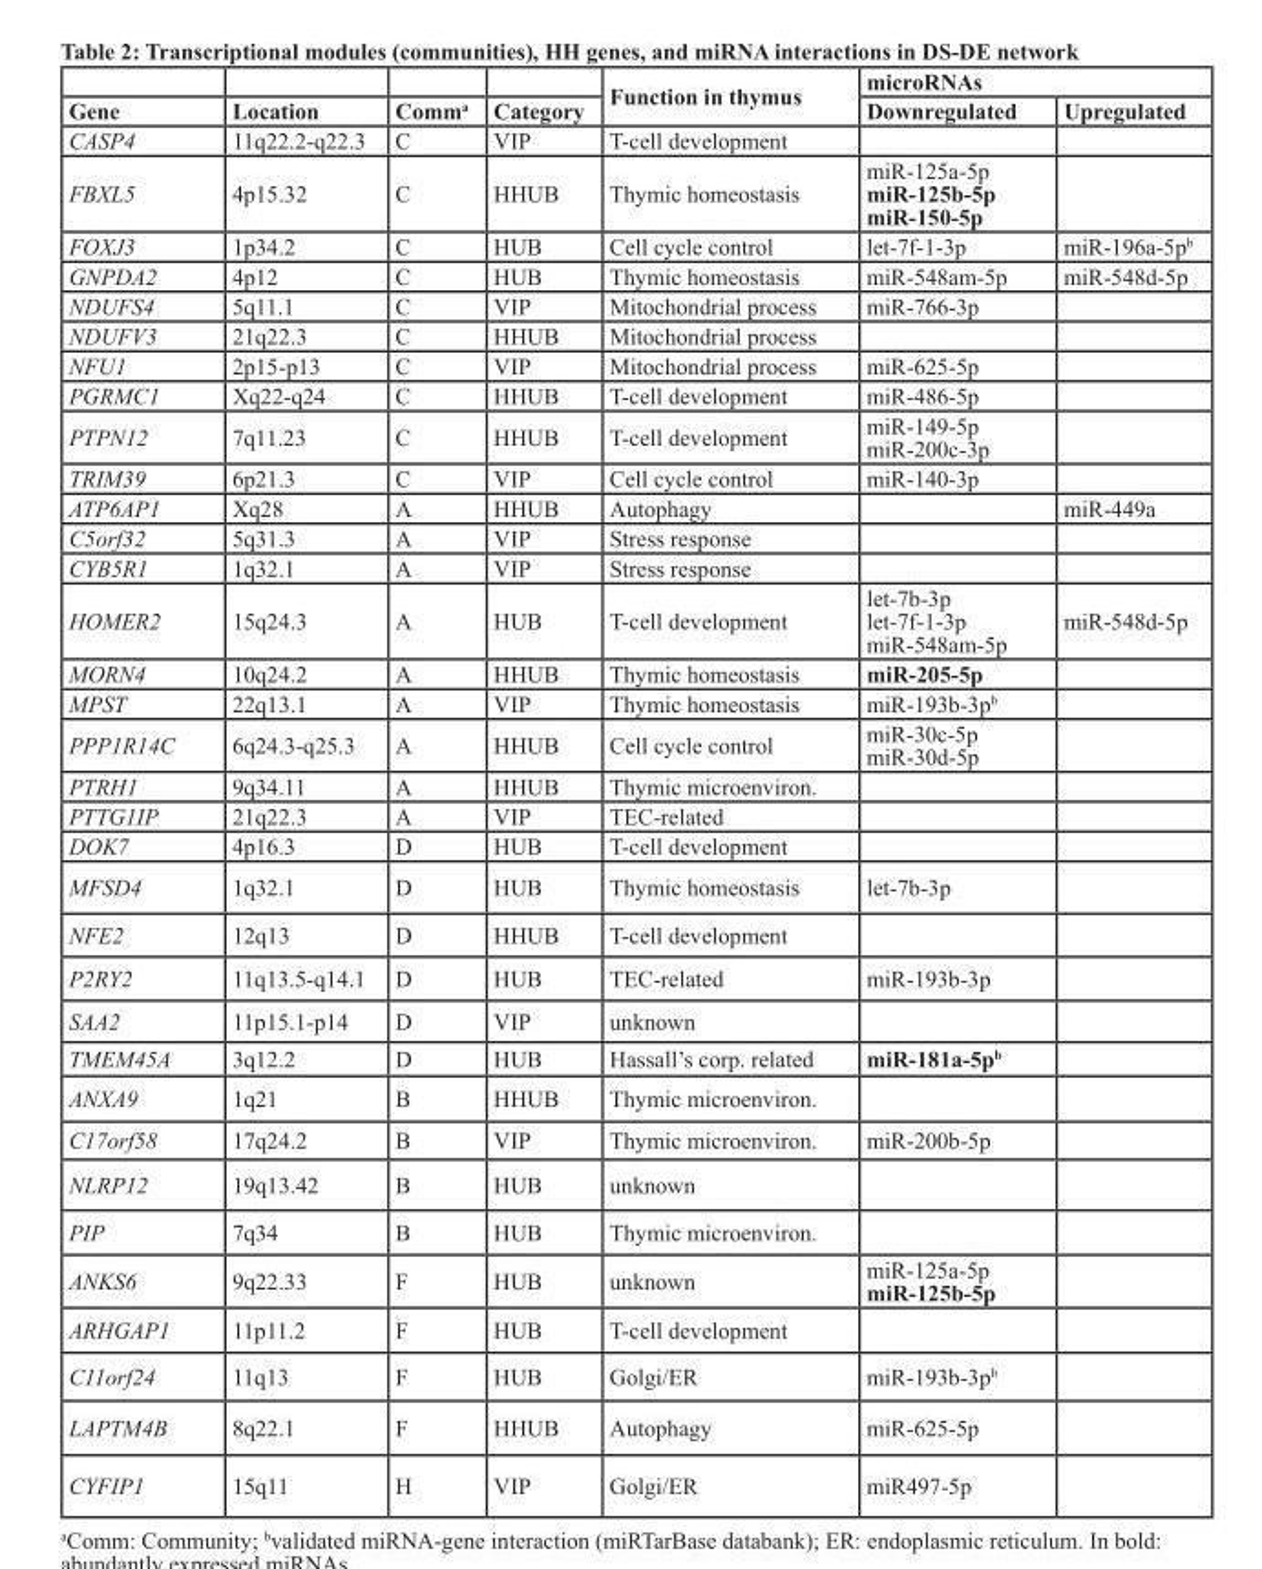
<table><thead><tr><td rowspan="2">Gene</td><td rowspan="2">Location</td><td rowspan="2">Comm<sup>a</sup></td><td rowspan="2">Category</td><td rowspan="2">Function in thymus</td><td colspan="2">microRNAs</td></tr><tr><td>Downregulated</td><td>Upregulated</td></tr></thead><tbody><tr><td>CASP4</td><td>11q22.2-q22.3</td><td>C</td><td>VIP</td><td>T-cell development</td><td></td><td></td></tr><tr><td>FBXL5</td><td>4p15.32</td><td>C</td><td>HHUB</td><td>Thymic homeostasis</td><td>miR-125a-5p miR-125b-5p miR-150-5p</td><td></td></tr><tr><td>FOXJ3</td><td>1p34.2</td><td>C</td><td>HUB</td><td>Cell cycle control</td><td>let-7f-1-3p</td><td>miR-196a-5p<sup>b</sup></td></tr><tr><td>GNPDA2</td><td>4p12</td><td>C</td><td>HUB</td><td>Thymic homeostasis</td><td>miR-548am-5p</td><td>miR-548d-5p</td></tr><tr><td>NDUFS4</td><td>5q11.1</td><td>C</td><td>VIP</td><td>Mitochondrial process</td><td>miR-766-3p</td><td></td></tr><tr><td>NDUFV3</td><td>21q22.3</td><td>C</td><td>HHUB</td><td>Mitochondrial process</td><td></td><td></td></tr><tr><td>NFU1</td><td>2p15-p13</td><td>C</td><td>VIP</td><td>Mitochondrial process</td><td>miR-625-5p</td><td></td></tr><tr><td>PGRMC1</td><td>Xq22-q24</td><td>C</td><td>HHUB</td><td>T-cell development</td><td>miR-486-5p</td><td></td></tr><tr><td>PTPN12</td><td>7q11.23</td><td>C</td><td>HHUB</td><td>T-cell development</td><td>miR-149-5p miR-200c-3p</td><td></td></tr><tr><td>TRIM39</td><td>6p21.3</td><td>C</td><td>VIP</td><td>Cell cycle control</td><td>miR-140-3p</td><td></td></tr><tr><td>ATP6AP1</td><td>Xq28</td><td>A</td><td>HHUB</td><td>Autophagy</td><td></td><td>miR-449a</td></tr><tr><td>C5orf32</td><td>5q31.3</td><td>A</td><td>VIP</td><td>Stress response</td><td></td><td></td></tr><tr><td>CYB5R1</td><td>1q32.1</td><td>A</td><td>VIP</td><td>Stress response</td><td></td><td></td></tr><tr><td>HOMER2</td><td>15q24.3</td><td>A</td><td>HUB</td><td>T-cell development</td><td>let-7b-3p let-7f-1-3p miR-548am-5p</td><td>miR-548d-5p</td></tr><tr><td>MORN4</td><td>10q24.2</td><td>A</td><td>HHUB</td><td>Thymic homeostasis</td><td>miR-205-5p</td><td></td></tr><tr><td>MPST</td><td>22q13.1</td><td>A</td><td>VIP</td><td>Thymic homeostasis</td><td>miR-193b-3p<sup>b</sup></td><td></td></tr><tr><td>PPP1R14C</td><td>6q24.3-q25.3</td><td>A</td><td>HHUB</td><td>Cell cycle control</td><td>miR-30c-5p miR-30d-5p</td><td></td></tr><tr><td>PTRH1</td><td>9q34.11</td><td>A</td><td>HHUB</td><td>Thymic microenviron.</td><td></td><td></td></tr><tr><td>PTTG1IP</td><td>21q22.3</td><td>A</td><td>VIP</td><td>TEC-related</td><td></td><td></td></tr><tr><td>DOK7</td><td>4p16.3</td><td>D</td><td>HUB</td><td>T-cell development</td><td></td><td></td></tr><tr><td>MFSD4</td><td>1q32.1</td><td>D</td><td>HUB</td><td>Thymic homeostasis</td><td>let-7b-3p</td><td></td></tr><tr><td>NFE2</td><td>12q13</td><td>D</td><td>HHUB</td><td>T-cell development</td><td></td><td></td></tr><tr><td>P2RY2</td><td>11q13.5-q14.1</td><td>D</td><td>HUB</td><td>TEC-related</td><td>miR-193b-3p</td><td></td></tr><tr><td>SAA2</td><td>11p15.1-p14</td><td>D</td><td>VIP</td><td>unknown</td><td></td><td></td></tr><tr><td>TMEM45A</td><td>3q12.2</td><td>D</td><td>HUB</td><td>Hassall’s corp. related</td><td>miR-181a-5p<sup>b</sup></td><td></td></tr><tr><td>ANXA9</td><td>1q21</td><td>B</td><td>HHUB</td><td>Thymic microenviron.</td><td></td><td></td></tr><tr><td>C17orf58</td><td>17q24.2</td><td>B</td><td>VIP</td><td>Thymic microenviron.</td><td>miR-200b-5p</td><td></td></tr><tr><td>NLRP12</td><td>19q13.42</td><td>B</td><td>HUB</td><td>unknown</td><td></td><td></td></tr><tr><td>PIP</td><td>7q34</td><td>B</td><td>HUB</td><td>Thymic microenviron.</td><td></td><td></td></tr><tr><td>ANKS6</td><td>9q22.33</td><td>F</td><td>HUB</td><td>unknown</td><td>miR-125a-5p miR-125b-5p</td><td></td></tr><tr><td>ARHGAP1</td><td>11p11.2</td><td>F</td><td>HUB</td><td>T-cell development</td><td></td><td></td></tr><tr><td>C11orf24</td><td>11q13</td><td>F</td><td>HUB</td><td>Golgi/ER</td><td>miR-193b-3p<sup>b</sup></td><td></td></tr><tr><td>LAPTM4B</td><td>8q22.1</td><td>F</td><td>HHUB</td><td>Autophagy</td><td>miR-625-5p</td><td></td></tr><tr><td>CYFIP1</td><td>15q11</td><td>H</td><td>VIP</td><td>Golgi/ER</td><td>miR497-5p</td><td></td></tr></tbody></table>